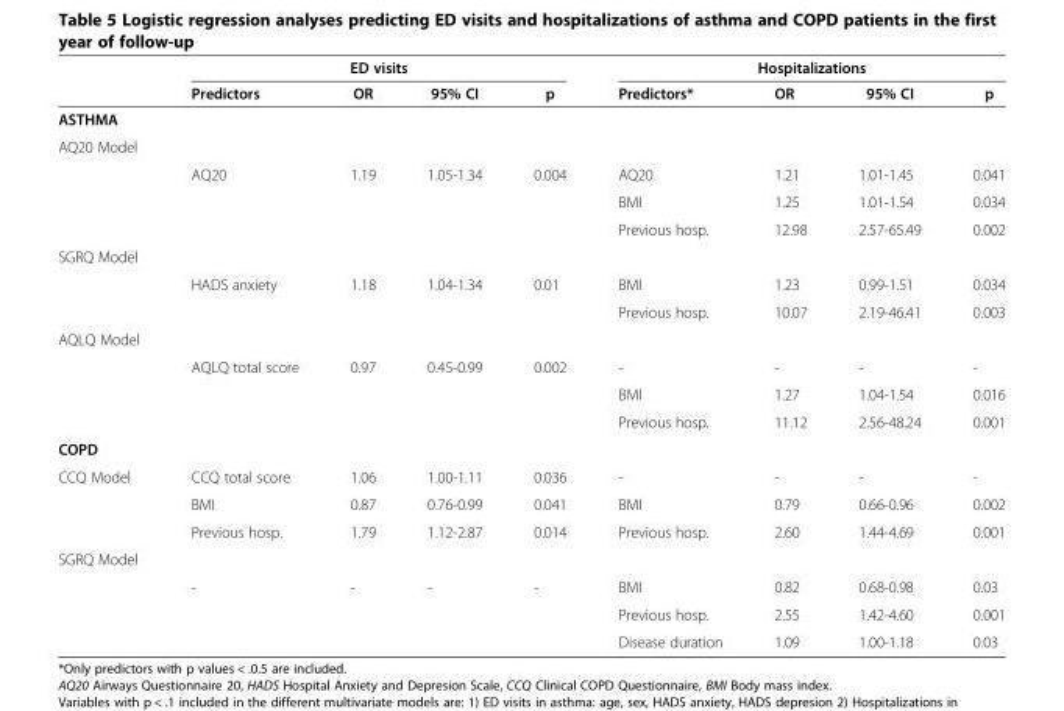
<table><thead><tr><td rowspan="2"></td><td colspan="4">ED visits</td><td colspan="4">Hospitalizations</td></tr><tr><td>Predictors</td><td>OR</td><td>95% CI</td><td>p</td><td>Predictors*</td><td>OR</td><td>95% CI</td><td>p</td></tr></thead><tbody><tr><td colspan="9">ASTHMA</td></tr><tr><td colspan="9">AQ20 Model</td></tr><tr><td rowspan="3"></td><td>AQ20</td><td>1.19</td><td>1.05-1.34</td><td>0.004</td><td>AQ20</td><td>1.21</td><td>1.01-1.45</td><td>0.041</td></tr><tr><td></td><td></td><td></td><td></td><td>BMI</td><td>1.25</td><td>1.01-1.54</td><td>0.034</td></tr><tr><td></td><td></td><td></td><td></td><td>Previous hosp.</td><td>12.98</td><td>2.57-65.49</td><td>0.002</td></tr><tr><td colspan="9">SGRQ Model</td></tr><tr><td rowspan="2"></td><td>HADS anxiety</td><td>1.18</td><td>1.04-1.34</td><td>0.01</td><td>BMI</td><td>1.23</td><td>0.99-1.51</td><td>0.034</td></tr><tr><td></td><td></td><td></td><td></td><td>Previous hosp.</td><td>10.07</td><td>2.19-46.41</td><td>0.003</td></tr><tr><td colspan="9">AQLQ Model</td></tr><tr><td rowspan="3"></td><td>AQLQ total score</td><td>0.97</td><td>0.45-0.99</td><td>0.002</td><td>-</td><td>-</td><td>-</td><td>-</td></tr><tr><td></td><td></td><td></td><td></td><td>BMI</td><td>1.27</td><td>1.04-1.54</td><td>0.016</td></tr><tr><td></td><td></td><td></td><td></td><td>Previous hosp.</td><td>11.12</td><td>2.56-48.24</td><td>0.001</td></tr><tr><td colspan="9">COPD</td></tr><tr><td rowspan="3">CCQ Model</td><td>CCQ total score</td><td>1.06</td><td>1.00-1.11</td><td>0.036</td><td>-</td><td>-</td><td>-</td><td>-</td></tr><tr><td>BMI</td><td>0.87</td><td>0.76-0.99</td><td>0.041</td><td>BMI</td><td>0.79</td><td>0.66-0.96</td><td>0.002</td></tr><tr><td>Previous hosp.</td><td>1.79</td><td>1.12-2.87</td><td>0.014</td><td>Previous hosp.</td><td>2.60</td><td>1.44-4.69</td><td>0.001</td></tr><tr><td colspan="9">SGRQ Model</td></tr><tr><td rowspan="3"></td><td>-</td><td>-</td><td>-</td><td>-</td><td>BMI</td><td>0.82</td><td>0.68-0.98</td><td>0.03</td></tr><tr><td></td><td></td><td></td><td></td><td>Previous hosp.</td><td>2.55</td><td>1.42-4.60</td><td>0.001</td></tr><tr><td></td><td></td><td></td><td></td><td>Disease duration</td><td>1.09</td><td>1.00-1.18</td><td>0.03</td></tr></tbody></table>